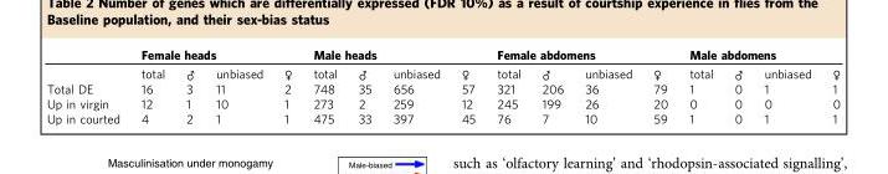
<table><thead><tr><td rowspan="2"></td><td colspan="4">Female heads</td><td colspan="4">Male heads</td><td colspan="4">Female abdomens</td><td colspan="4">Male abdomens</td></tr><tr><td>total</td><td>♂</td><td>unbiased</td><td>♀</td><td>total</td><td>♂</td><td>unbiased</td><td>♀</td><td>total</td><td>♂</td><td>unbiased</td><td>♀</td><td>total</td><td>♂</td><td>unbiased</td><td>♀</td></tr></thead><tbody><tr><td>Total DE</td><td>16</td><td>3</td><td>11</td><td>2</td><td>748</td><td>35</td><td>656</td><td>57</td><td>321</td><td>206</td><td>36</td><td>79</td><td>1</td><td>0</td><td>1</td><td>1</td></tr><tr><td>Up in virgin</td><td>12</td><td>1</td><td>10</td><td>1</td><td>273</td><td>2</td><td>259</td><td>12</td><td>245</td><td>199</td><td>26</td><td>20</td><td>0</td><td>0</td><td>0</td><td>0</td></tr><tr><td>Up in courted</td><td>4</td><td>2</td><td>1</td><td>1</td><td>475</td><td>33</td><td>397</td><td>45</td><td>76</td><td>7</td><td>10</td><td>59</td><td>1</td><td>0</td><td>1</td><td>1</td></tr></tbody></table>